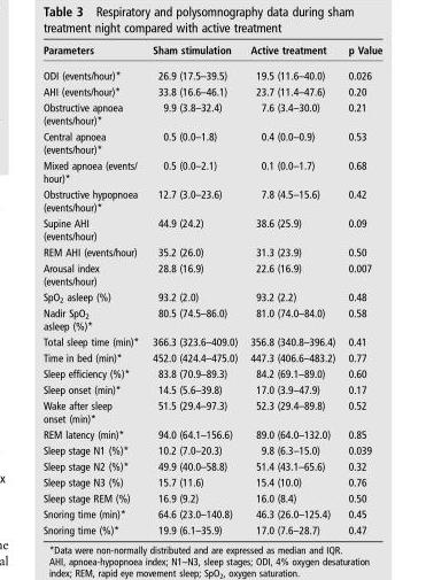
<table><thead><tr><td>Parameters</td><td>Sham stimulation</td><td>Active treatment</td><td>p Value</td></tr></thead><tbody><tr><td>ODI (events/hour)*</td><td>26.9 (17.5–39.5)</td><td>19.5 (11.6–40.0)</td><td>0.026</td></tr><tr><td>AHI (events/hour)*</td><td>33.8 (16.6–46.1)</td><td>23.7 (11.4–47.6)</td><td>0.20</td></tr><tr><td>Obstructive apnoea (events/hour)*</td><td>9.9 (3.8–32.4)</td><td>7.6 (3.4–30.0)</td><td>0.21</td></tr><tr><td>Central apnoea (events/hour)*</td><td>0.5 (0.0–1.8)</td><td>0.4 (0.0–0.9)</td><td>0.53</td></tr><tr><td>Mixed apnoea (events/ hour)*</td><td>0.5 (0.0–2.1)</td><td>0.1 (0.0–1.7)</td><td>0.68</td></tr><tr><td>Obstructive hypopnoea (events/hour)*</td><td>12.7 (3.0–23.6)</td><td>7.8 (4.5–15.6)</td><td>0.42</td></tr><tr><td>Supine AHI (events/hour)</td><td>44.9 (24.2)</td><td>38.6 (25.9)</td><td>0.09</td></tr><tr><td>REM AHI (events/hour)</td><td>35.2 (26.0)</td><td>31.3 (23.9)</td><td>0.50</td></tr><tr><td>Arousal index (events/hour)</td><td>28.8 (16.9)</td><td>22.6 (16.9)</td><td>0.007</td></tr><tr><td>SpO<sub>2</sub> asleep (%)</td><td>93.2 (2.0)</td><td>93.2 (2.2)</td><td>0.48</td></tr><tr><td>Nadir SpO<sub>2</sub> asleep (%)*</td><td>80.5 (74.5–86.0)</td><td>81.0 (74.0–84.0)</td><td>0.58</td></tr><tr><td>Total sleep time (min)*</td><td>366.3 (323.6–409.0)</td><td>356.8 (340.8–396.4)</td><td>0.41</td></tr><tr><td>Time in bed (min)*</td><td>452.0 (424.4–475.0)</td><td>447.3 (406.6–483.2)</td><td>0.77</td></tr><tr><td>Sleep efficiency (%)*</td><td>83.8 (70.9–89.3)</td><td>84.2 (69.1–89.0)</td><td>0.60</td></tr><tr><td>Sleep onset (min)*</td><td>14.5 (5.6–39.8)</td><td>17.0 (3.9–47.9)</td><td>0.17</td></tr><tr><td>Wake after sleep onset (min)*</td><td>51.5 (29.4–97.3)</td><td>52.3 (29.4–89.8)</td><td>0.52</td></tr><tr><td>REM latency (min)*</td><td>94.0 (64.1–156.6)</td><td>89.0 (64.0–132.0)</td><td>0.85</td></tr><tr><td>Sleep stage N1 (%)*</td><td>10.2 (7.0–20.3)</td><td>9.8 (6.3–15.0)</td><td>0.039</td></tr><tr><td>Sleep stage N2 (%)*</td><td>49.9 (40.0–58.8)</td><td>51.4 (43.1–65.6)</td><td>0.32</td></tr><tr><td>Sleep stage N3 (%)</td><td>15.7 (11.6)</td><td>15.4 (10.0)</td><td>0.76</td></tr><tr><td>Sleep stage REM (%)</td><td>16.9 (9.2)</td><td>16.0 (8.4)</td><td>0.50</td></tr><tr><td>Snoring time (min)*</td><td>64.6 (23.0–140.8)</td><td>46.3 (26.0–125.4)</td><td>0.45</td></tr><tr><td>Snoring time (%)*</td><td>19.9 (6.1–35.9)</td><td>17.0 (7.6–28.7)</td><td>0.47</td></tr></tbody></table>